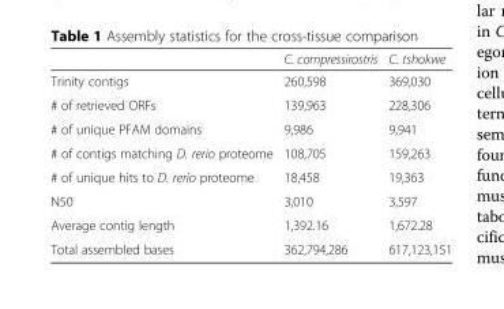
<table><thead><tr><td></td><td>C. compressirostris</td><td>C. tshokwe</td></tr></thead><tbody><tr><td>Trinity contigs</td><td>260,598</td><td>369,030</td></tr><tr><td># of retrieved ORFs</td><td>139,963</td><td>228,306</td></tr><tr><td># of unique PFAM domains</td><td>9,986</td><td>9,941</td></tr><tr><td># of contigs matching D. rerio proteome</td><td>108,705</td><td>159,263</td></tr><tr><td># of unique hits to D. rerio proteome</td><td>18,458</td><td>19,363</td></tr><tr><td>N50</td><td>3,010</td><td>3,597</td></tr><tr><td>Average contig length</td><td>1,392.16</td><td>1,672.28</td></tr><tr><td>Total assembled bases</td><td>362,794,286</td><td>617,123,151</td></tr></tbody></table>